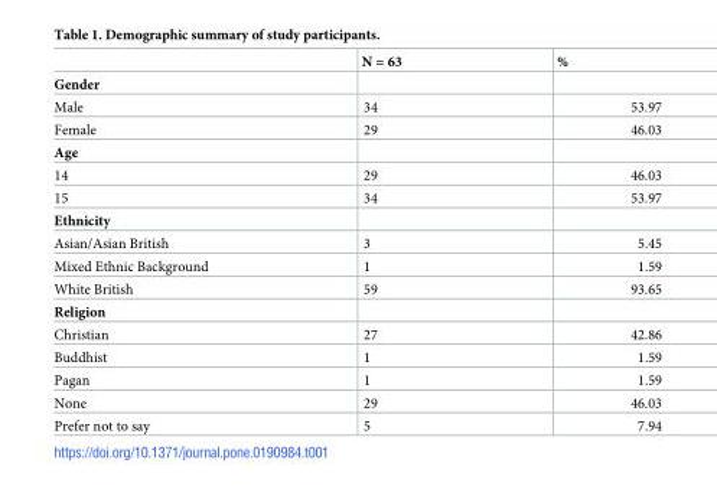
<table><thead><tr><td></td><td>N = 63</td><td>%</td></tr></thead><tbody><tr><td colspan="3">Gender</td></tr><tr><td>Male</td><td>34</td><td>53.97</td></tr><tr><td>Female</td><td>29</td><td>46.03</td></tr><tr><td colspan="3">Age</td></tr><tr><td>14</td><td>29</td><td>46.03</td></tr><tr><td>15</td><td>34</td><td>53.97</td></tr><tr><td colspan="3">Ethnicity</td></tr><tr><td>Asian/Asian British</td><td>3</td><td>5.45</td></tr><tr><td>Mixed Ethnic Background</td><td>1</td><td>1.59</td></tr><tr><td>White British</td><td>59</td><td>93.65</td></tr><tr><td colspan="3">Religion</td></tr><tr><td>Christian</td><td>27</td><td>42.86</td></tr><tr><td>Buddhist</td><td>1</td><td>1.59</td></tr><tr><td>Pagan</td><td>1</td><td>1.59</td></tr><tr><td>None</td><td>29</td><td>46.03</td></tr><tr><td>Prefer not to say</td><td>5</td><td>7.94</td></tr></tbody></table>